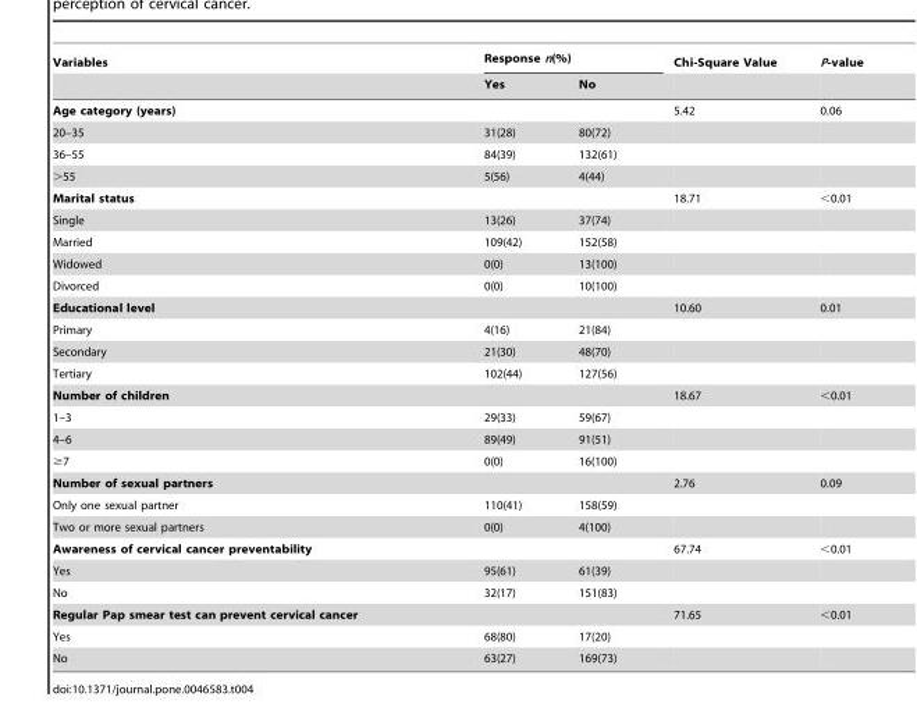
<table><thead><tr><td rowspan="2">Variables</td><td colspan="2">Response n(%)</td><td rowspan="2">Chi-Square Value</td><td rowspan="2">P-value</td></tr><tr><td>Yes</td><td>No</td></tr></thead><tbody><tr><td>Age category (years)</td><td></td><td></td><td>5.42</td><td>0.06</td></tr><tr><td>20–35</td><td>31(28)</td><td>80(72)</td><td></td><td></td></tr><tr><td>36–55</td><td>84(39)</td><td>132(61)</td><td></td><td></td></tr><tr><td>&gt;55</td><td>5(56)</td><td>4(44)</td><td></td><td></td></tr><tr><td>Marital status</td><td></td><td></td><td>18.71</td><td>&lt;0.01</td></tr><tr><td>Single</td><td>13(26)</td><td>37(74)</td><td></td><td></td></tr><tr><td>Married</td><td>109(42)</td><td>152(58)</td><td></td><td></td></tr><tr><td>Widowed</td><td>0(0)</td><td>13(100)</td><td></td><td></td></tr><tr><td>Divorced</td><td>0(0)</td><td>10(100)</td><td></td><td></td></tr><tr><td>Educational level</td><td></td><td></td><td>10.60</td><td>0.01</td></tr><tr><td>Primary</td><td>4(16)</td><td>21(84)</td><td></td><td></td></tr><tr><td>Secondary</td><td>21(30)</td><td>48(70)</td><td></td><td></td></tr><tr><td>Tertiary</td><td>102(44)</td><td>127(56)</td><td></td><td></td></tr><tr><td>Number of children</td><td></td><td></td><td>18.67</td><td>&lt;0.01</td></tr><tr><td>1–3</td><td>29(33)</td><td>59(67)</td><td></td><td></td></tr><tr><td>4–6</td><td>89(49)</td><td>91(51)</td><td></td><td></td></tr><tr><td>≥7</td><td>0(0)</td><td>16(100)</td><td></td><td></td></tr><tr><td>Number of sexual partners</td><td></td><td></td><td>2.76</td><td>0.09</td></tr><tr><td>Only one sexual partner</td><td>110(41)</td><td>158(59)</td><td></td><td></td></tr><tr><td>Two or more sexual partners</td><td>0(0)</td><td>4(100)</td><td></td><td></td></tr><tr><td>Awareness of cervical cancer preventability</td><td></td><td></td><td>67.74</td><td>&lt;0.01</td></tr><tr><td>Yes</td><td>95(61)</td><td>61(39)</td><td></td><td></td></tr><tr><td>No</td><td>32(17)</td><td>151(83)</td><td></td><td></td></tr><tr><td>Regular Pap smear test can prevent cervical cancer</td><td></td><td></td><td>71.65</td><td>&lt;0.01</td></tr><tr><td>Yes</td><td>68(80)</td><td>17(20)</td><td></td><td></td></tr><tr><td>No</td><td>63(27)</td><td>169(73)</td><td></td><td></td></tr></tbody></table>